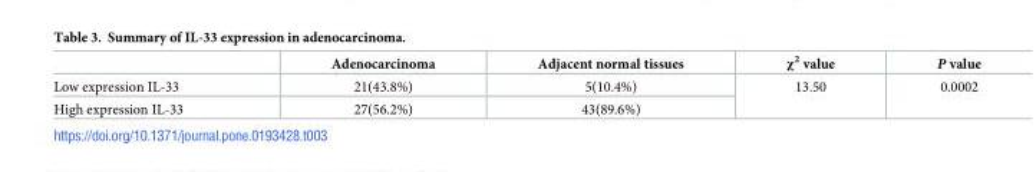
<table><thead><tr><td></td><td>Adenocarcinoma</td><td>Adjacent normal tissues</td><td>χ<sup>2</sup> value</td><td>P value</td></tr></thead><tbody><tr><td>Low expression IL-33</td><td>21(43.8%)</td><td>5(10.4%)</td><td rowspan="2">13.50</td><td rowspan="2">0.0002</td></tr><tr><td>High expression IL-33</td><td>27(56.2%)</td><td>43(89.6%)</td></tr></tbody></table>